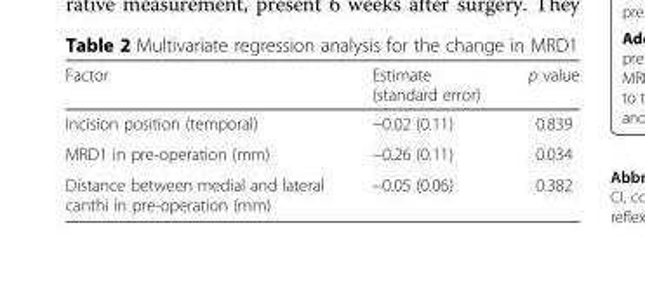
<table><thead><tr><td>Factor</td><td>Estimate (standard error)</td><td>p value</td></tr></thead><tbody><tr><td>Incision position (temporal)</td><td>−0.02 (0.11)</td><td>0.839</td></tr><tr><td>MRD1 in pre-operation (mm)</td><td>−0.26 (0.11)</td><td>0.034</td></tr><tr><td>Distance between medial and lateral canthi in pre-operation (mm)</td><td>−0.05 (0.06)</td><td>0.382</td></tr></tbody></table>